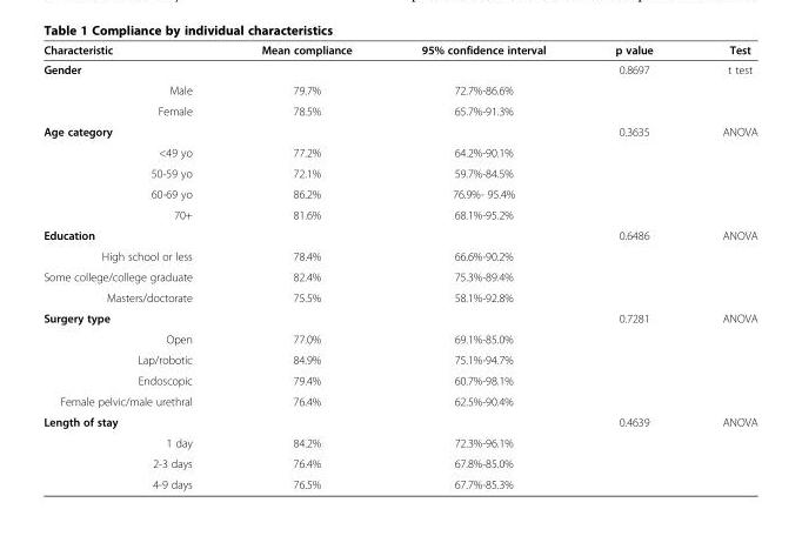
<table><thead><tr><td>Characteristic</td><td>Mean compliance</td><td>95% confidence interval</td><td>p value</td><td>Test</td></tr></thead><tbody><tr><td>Gender</td><td></td><td></td><td>0.8697</td><td>t test</td></tr><tr><td>Male</td><td>79.7%</td><td>72.7%-86.6%</td><td></td><td></td></tr><tr><td>Female</td><td>78.5%</td><td>65.7%-91.3%</td><td></td><td></td></tr><tr><td>Age category</td><td></td><td></td><td>0.3635</td><td>ANOVA</td></tr><tr><td>&lt;49 yo</td><td>77.2%</td><td>64.2%-90.1%</td><td></td><td></td></tr><tr><td>50-59 yo</td><td>72.1%</td><td>59.7%-84.5%</td><td></td><td></td></tr><tr><td>60-69 yo</td><td>86.2%</td><td>76.9%- 95.4%</td><td></td><td></td></tr><tr><td>70+</td><td>81.6%</td><td>68.1%-95.2%</td><td></td><td></td></tr><tr><td>Education</td><td></td><td></td><td>0.6486</td><td>ANOVA</td></tr><tr><td>High school or less</td><td>78.4%</td><td>66.6%-90.2%</td><td></td><td></td></tr><tr><td>Some college/college graduate</td><td>82.4%</td><td>75.3%-89.4%</td><td></td><td></td></tr><tr><td>Masters/doctorate</td><td>75.5%</td><td>58.1%-92.8%</td><td></td><td></td></tr><tr><td>Surgery type</td><td></td><td></td><td>0.7281</td><td>ANOVA</td></tr><tr><td>Open</td><td>77.0%</td><td>69.1%-85.0%</td><td></td><td></td></tr><tr><td>Lap/robotic</td><td>84.9%</td><td>75.1%-94.7%</td><td></td><td></td></tr><tr><td>Endoscopic</td><td>79.4%</td><td>60.7%-98.1%</td><td></td><td></td></tr><tr><td>Female pelvic/male urethral</td><td>76.4%</td><td>62.5%-90.4%</td><td></td><td></td></tr><tr><td>Length of stay</td><td></td><td></td><td>0.4639</td><td>ANOVA</td></tr><tr><td>1 day</td><td>84.2%</td><td>72.3%-96.1%</td><td></td><td></td></tr><tr><td>2-3 days</td><td>76.4%</td><td>67.8%-85.0%</td><td></td><td></td></tr><tr><td>4-9 days</td><td>76.5%</td><td>67.7%-85.3%</td><td></td><td></td></tr></tbody></table>